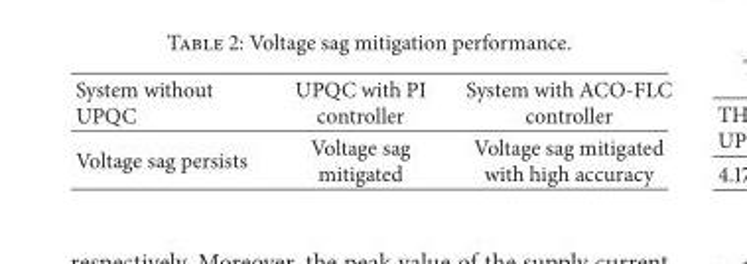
<table><thead><tr><td>System without UPQC</td><td>UPQC with PI controller</td><td>System with ACO-FLC controller</td></tr></thead><tbody><tr><td>Voltage sag persists</td><td>Voltage sag mitigated</td><td>Voltage sag mitigated with high accuracy</td></tr></tbody></table>